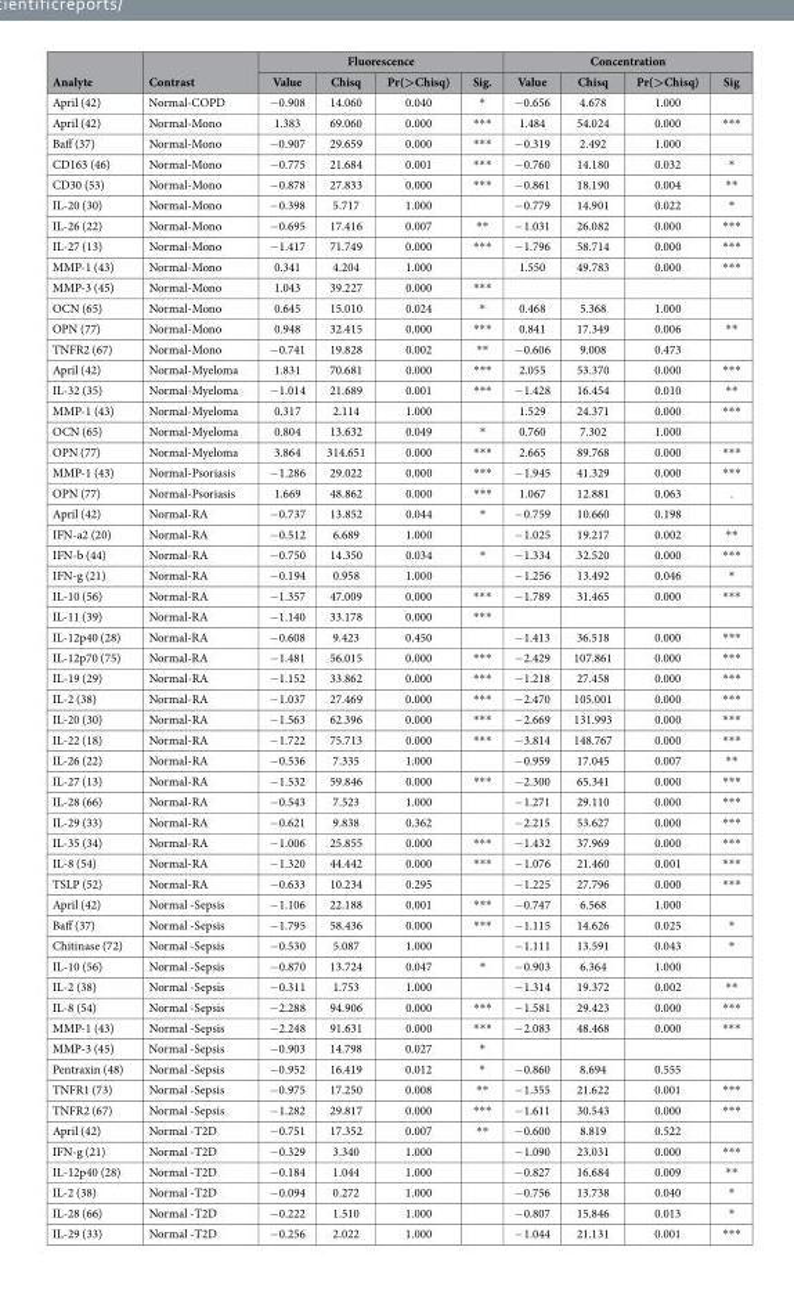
<table><thead><tr><td rowspan="2">Analyte</td><td rowspan="2">Contrast</td><td colspan="4">Fluorescence</td><td colspan="4">Concentration</td></tr><tr><td>Value</td><td>Chisq</td><td>Pr(&gt;Chisq)</td><td>Sig.</td><td>Value</td><td>Chisq</td><td>Pr(&gt;Chisq)</td><td>Sig</td></tr></thead><tbody><tr><td>April (42)</td><td>Normal-COPD</td><td>− 0.908</td><td>14.060</td><td>0.040</td><td>*</td><td>− 0.656</td><td>4.678</td><td>1.000</td><td></td></tr><tr><td>April (42)</td><td>Normal-Mono</td><td>1.383</td><td>69.060</td><td>0.000</td><td>* * *</td><td>1.484</td><td>54.024</td><td>0.000</td><td>* * *</td></tr><tr><td>Baff (37)</td><td>Normal-Mono</td><td>− 0.907</td><td>29.659</td><td>0.000</td><td>* * *</td><td>− 0.319</td><td>2.492</td><td>1.000</td><td></td></tr><tr><td>CD163 (46)</td><td>Normal-Mono</td><td>− 0.775</td><td>21.684</td><td>0.001</td><td>* * *</td><td>− 0.760</td><td>14.180</td><td>0.032</td><td>*</td></tr><tr><td>CD30 (53)</td><td>Normal-Mono</td><td>− 0.878</td><td>27.833</td><td>0.000</td><td>* * *</td><td>− 0.861</td><td>18.190</td><td>0.004</td><td>* *</td></tr><tr><td>IL-20 (30)</td><td>Normal-Mono</td><td>− 0.398</td><td>5.717</td><td>1.000</td><td></td><td>− 0.779</td><td>14.901</td><td>0.022</td><td>*</td></tr><tr><td>IL-26 (22)</td><td>Normal-Mono</td><td>− 0.695</td><td>17.416</td><td>0.007</td><td>* *</td><td>− 1.031</td><td>26.082</td><td>0.000</td><td>* * *</td></tr><tr><td>IL-27 (13)</td><td>Normal-Mono</td><td>− 1.417</td><td>71.749</td><td>0.000</td><td>* * *</td><td>− 1.796</td><td>58.714</td><td>0.000</td><td>* * *</td></tr><tr><td>MMP-1 (43)</td><td>Normal-Mono</td><td>0.341</td><td>4.204</td><td>1.000</td><td></td><td>1.550</td><td>49.783</td><td>0.000</td><td>* * *</td></tr><tr><td>MMP-3 (45)</td><td>Normal-Mono</td><td>1.043</td><td>39.227</td><td>0.000</td><td>* * *</td><td></td><td></td><td></td><td></td></tr><tr><td>OCN (65)</td><td>Normal-Mono</td><td>0.645</td><td>15.010</td><td>0.024</td><td>*</td><td>0.468</td><td>5.368</td><td>1.000</td><td></td></tr><tr><td>OPN (77)</td><td>Normal-Mono</td><td>0.948</td><td>32.415</td><td>0.000</td><td>* * *</td><td>0.841</td><td>17.349</td><td>0.006</td><td>* *</td></tr><tr><td>TNFR2 (67)</td><td>Normal-Mono</td><td>− 0.741</td><td>19.828</td><td>0.002</td><td>* *</td><td>− 0.606</td><td>9.008</td><td>0.473</td><td></td></tr><tr><td>April (42)</td><td>Normal-Myeloma</td><td>1.831</td><td>70.681</td><td>0.000</td><td>* * *</td><td>2.055</td><td>53.370</td><td>0.000</td><td>* * *</td></tr><tr><td>IL-32 (35)</td><td>Normal-Myeloma</td><td>− 1.014</td><td>21.689</td><td>0.001</td><td>* * *</td><td>− 1.428</td><td>16.454</td><td>0.010</td><td>* *</td></tr><tr><td>MMP-1 (43)</td><td>Normal-Myeloma</td><td>0.317</td><td>2.114</td><td>1.000</td><td></td><td>1.529</td><td>24.371</td><td>0.000</td><td>* * *</td></tr><tr><td>OCN (65)</td><td>Normal-Myeloma</td><td>0.804</td><td>13.632</td><td>0.049</td><td>*</td><td>0.760</td><td>7.302</td><td>1.000</td><td></td></tr><tr><td>OPN (77)</td><td>Normal-Myeloma</td><td>3.864</td><td>314.651</td><td>0.000</td><td>* * *</td><td>2.665</td><td>89.768</td><td>0.000</td><td>* * *</td></tr><tr><td>MMP-1 (43)</td><td>Normal-Psoriasis</td><td>− 1.286</td><td>29.022</td><td>0.000</td><td>* * *</td><td>− 1.945</td><td>41.329</td><td>0.000</td><td>* * *</td></tr><tr><td>OPN (77)</td><td>Normal-Psoriasis</td><td>1.669</td><td>48.862</td><td>0.000</td><td>* * *</td><td>1.067</td><td>12.881</td><td>0.063</td><td>.</td></tr><tr><td>April (42)</td><td>Normal-RA</td><td>− 0.737</td><td>13.852</td><td>0.044</td><td>*</td><td>− 0.759</td><td>10.660</td><td>0.198</td><td></td></tr><tr><td>IFN-a2 (20)</td><td>Normal-RA</td><td>− 0.512</td><td>6.689</td><td>1.000</td><td></td><td>− 1.025</td><td>19.217</td><td>0.002</td><td>* *</td></tr><tr><td>IFN-b (44)</td><td>Normal-RA</td><td>− 0.750</td><td>14.350</td><td>0.034</td><td>*</td><td>− 1.334</td><td>32.520</td><td>0.000</td><td>* * *</td></tr><tr><td>IFN-g (21)</td><td>Normal-RA</td><td>− 0.194</td><td>0.958</td><td>1.000</td><td></td><td>− 1.256</td><td>13.492</td><td>0.046</td><td>*</td></tr><tr><td>IL-10 (56)</td><td>Normal-RA</td><td>− 1.357</td><td>47.009</td><td>0.000</td><td>* * *</td><td>− 1.789</td><td>31.465</td><td>0.000</td><td>* * *</td></tr><tr><td>IL-11 (39)</td><td>Normal-RA</td><td>− 1.140</td><td>33.178</td><td>0.000</td><td>* * *</td><td></td><td></td><td></td><td></td></tr><tr><td>IL-12p40 (28)</td><td>Normal-RA</td><td>− 0.608</td><td>9.423</td><td>0.450</td><td></td><td>− 1.413</td><td>36.518</td><td>0.000</td><td>* * *</td></tr><tr><td>IL-12p70 (75)</td><td>Normal-RA</td><td>− 1.481</td><td>56.015</td><td>0.000</td><td>* * *</td><td>− 2.429</td><td>107.861</td><td>0.000</td><td>* * *</td></tr><tr><td>IL-19 (29)</td><td>Normal-RA</td><td>− 1.152</td><td>33.862</td><td>0.000</td><td>* * *</td><td>− 1.218</td><td>27.458</td><td>0.000</td><td>* * *</td></tr><tr><td>IL-2 (38)</td><td>Normal-RA</td><td>− 1.037</td><td>27.469</td><td>0.000</td><td>* * *</td><td>− 2.470</td><td>105.001</td><td>0.000</td><td>* * *</td></tr><tr><td>IL-20 (30)</td><td>Normal-RA</td><td>− 1.563</td><td>62.396</td><td>0.000</td><td>* * *</td><td>− 2.669</td><td>131.993</td><td>0.000</td><td>* * *</td></tr><tr><td>IL-22 (18)</td><td>Normal-RA</td><td>− 1.722</td><td>75.713</td><td>0.000</td><td>* * *</td><td>− 3.814</td><td>148.767</td><td>0.000</td><td>* * *</td></tr><tr><td>IL-26 (22)</td><td>Normal-RA</td><td>− 0.536</td><td>7.335</td><td>1.000</td><td></td><td>− 0.959</td><td>17.045</td><td>0.007</td><td>* *</td></tr><tr><td>IL-27 (13)</td><td>Normal-RA</td><td>− 1.532</td><td>59.846</td><td>0.000</td><td>* * *</td><td>− 2.300</td><td>65.341</td><td>0.000</td><td>* * *</td></tr><tr><td>IL-28 (66)</td><td>Normal-RA</td><td>− 0.543</td><td>7.523</td><td>1.000</td><td></td><td>− 1.271</td><td>29.110</td><td>0.000</td><td>* * *</td></tr><tr><td>IL-29 (33)</td><td>Normal-RA</td><td>− 0.621</td><td>9.838</td><td>0.362</td><td></td><td>− 2.215</td><td>53.627</td><td>0.000</td><td>* * *</td></tr><tr><td>IL-35 (34)</td><td>Normal-RA</td><td>− 1.006</td><td>25.855</td><td>0.000</td><td>* * *</td><td>− 1.432</td><td>37.969</td><td>0.000</td><td>* * *</td></tr><tr><td>IL-8 (54)</td><td>Normal-RA</td><td>− 1.320</td><td>44.442</td><td>0.000</td><td>* * *</td><td>− 1.076</td><td>21.460</td><td>0.001</td><td>* * *</td></tr><tr><td>TSLP (52)</td><td>Normal-RA</td><td>− 0.633</td><td>10.234</td><td>0.295</td><td></td><td>− 1.225</td><td>27.796</td><td>0.000</td><td>* * *</td></tr><tr><td>April (42)</td><td>Normal -Sepsis</td><td>− 1.106</td><td>22.188</td><td>0.001</td><td>* * *</td><td>− 0.747</td><td>6.568</td><td>1.000</td><td></td></tr><tr><td>Baff (37)</td><td>Normal -Sepsis</td><td>− 1.795</td><td>58.436</td><td>0.000</td><td>* * *</td><td>− 1.115</td><td>14.626</td><td>0.025</td><td>*</td></tr><tr><td>Chitinase (72)</td><td>Normal -Sepsis</td><td>− 0.530</td><td>5.087</td><td>1.000</td><td></td><td>− 1.111</td><td>13.591</td><td>0.043</td><td>*</td></tr><tr><td>IL-10 (56)</td><td>Normal -Sepsis</td><td>− 0.870</td><td>13.724</td><td>0.047</td><td>*</td><td>− 0.903</td><td>6.364</td><td>1.000</td><td></td></tr><tr><td>IL-2 (38)</td><td>Normal -Sepsis</td><td>− 0.311</td><td>1.753</td><td>1.000</td><td></td><td>− 1.314</td><td>19.372</td><td>0.002</td><td>* *</td></tr><tr><td>IL-8 (54)</td><td>Normal -Sepsis</td><td>− 2.288</td><td>94.906</td><td>0.000</td><td>* * *</td><td>− 1.581</td><td>29.423</td><td>0.000</td><td>* * *</td></tr><tr><td>MMP-1 (43)</td><td>Normal -Sepsis</td><td>− 2.248</td><td>91.631</td><td>0.000</td><td>* * *</td><td>− 2.083</td><td>48.468</td><td>0.000</td><td>* * *</td></tr><tr><td>MMP-3 (45)</td><td>Normal -Sepsis</td><td>− 0.903</td><td>14.798</td><td>0.027</td><td>*</td><td></td><td></td><td></td><td></td></tr><tr><td>Pentraxin (48)</td><td>Normal -Sepsis</td><td>− 0.952</td><td>16.419</td><td>0.012</td><td>*</td><td>− 0.860</td><td>8.694</td><td>0.555</td><td></td></tr><tr><td>TNFR1 (73)</td><td>Normal -Sepsis</td><td>− 0.975</td><td>17.250</td><td>0.008</td><td>* *</td><td>− 1.355</td><td>21.622</td><td>0.001</td><td>* * *</td></tr><tr><td>TNFR2 (67)</td><td>Normal -Sepsis</td><td>− 1.282</td><td>29.817</td><td>0.000</td><td>* * *</td><td>− 1.611</td><td>30.543</td><td>0.000</td><td>* * *</td></tr><tr><td>April (42)</td><td>Normal -T2D</td><td>− 0.751</td><td>17.352</td><td>0.007</td><td>* *</td><td>− 0.600</td><td>8.819</td><td>0.522</td><td></td></tr><tr><td>IFN-g (21)</td><td>Normal -T2D</td><td>− 0.329</td><td>3.340</td><td>1.000</td><td></td><td>− 1.090</td><td>23.031</td><td>0.000</td><td>* * *</td></tr><tr><td>IL-12p40 (28)</td><td>Normal -T2D</td><td>− 0.184</td><td>1.044</td><td>1.000</td><td></td><td>− 0.827</td><td>16.684</td><td>0.009</td><td>* *</td></tr><tr><td>IL-2 (38)</td><td>Normal -T2D</td><td>− 0.094</td><td>0.272</td><td>1.000</td><td></td><td>− 0.756</td><td>13.738</td><td>0.040</td><td>*</td></tr><tr><td>IL-28 (66)</td><td>Normal -T2D</td><td>− 0.222</td><td>1.510</td><td>1.000</td><td></td><td>− 0.807</td><td>15.846</td><td>0.013</td><td>*</td></tr><tr><td>IL-29 (33)</td><td>Normal -T2D</td><td>− 0.256</td><td>2.022</td><td>1.000</td><td></td><td>− 1.044</td><td>21.131</td><td>0.001</td><td>* * *</td></tr></tbody></table>